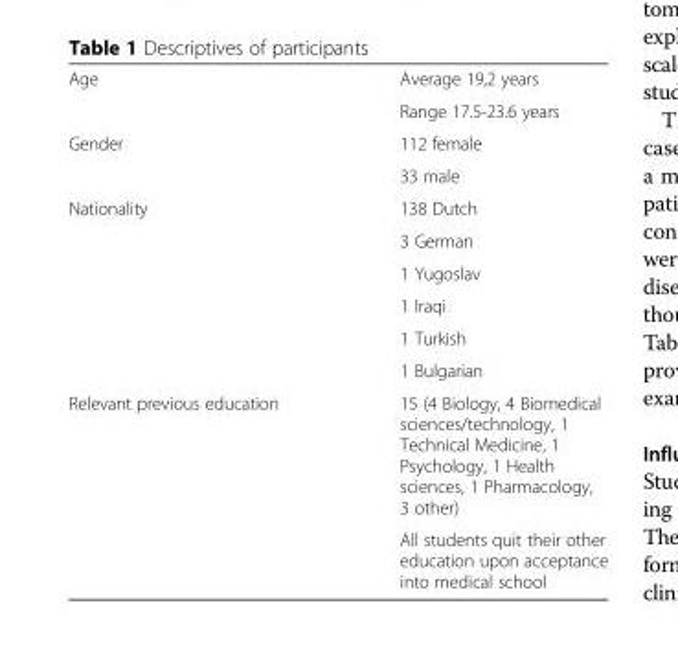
<table><tbody><tr><td rowspan="2">Age</td><td>Average 19,2 years</td></tr><tr><td>Range 17.5-23.6 years</td></tr><tr><td rowspan="2">Gender</td><td>112 female</td></tr><tr><td>33 male</td></tr><tr><td rowspan="6">Nationality</td><td>138 Dutch</td></tr><tr><td>3 German</td></tr><tr><td>1 Yugoslav</td></tr><tr><td>1 Iraqi</td></tr><tr><td>1 Turkish</td></tr><tr><td>1 Bulgarian</td></tr><tr><td rowspan="2">Relevant previous education</td><td>15 (4 Biology, 4 Biomedical sciences/technology, 1 Technical Medicine, 1 Psychology, 1 Health sciences, 1 Pharmacology, 3 other)</td></tr><tr><td>All students quit their other education upon acceptance into medical school</td></tr></tbody></table>